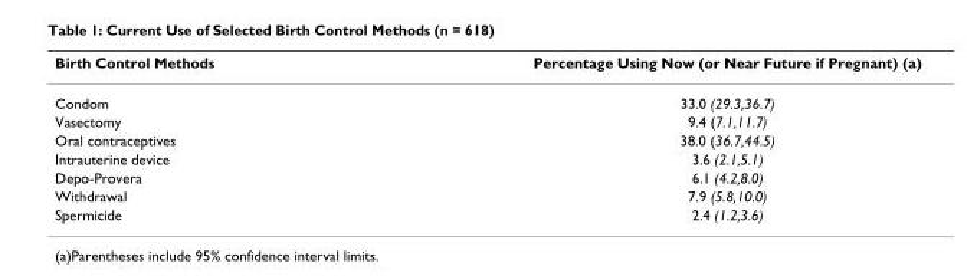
<table><thead><tr><td>Birth Control Methods</td><td>Percentage Using Now (or Near Future if Pregnant) (a)</td></tr></thead><tbody><tr><td>Condom</td><td>33.0 (29.3,36.7)</td></tr><tr><td>Vasectomy</td><td>9.4 (7.1,11.7)</td></tr><tr><td>Oral contraceptives</td><td>38.0 (36.7,44.5)</td></tr><tr><td>Intrauterine device</td><td>3.6 (2.1,5.1)</td></tr><tr><td>Depo-Provera</td><td>6.1 (4.2,8.0)</td></tr><tr><td>Withdrawal</td><td>7.9 (5.8,10.0)</td></tr><tr><td>Spermicide</td><td>2.4 (1.2,3.6)</td></tr></tbody></table>